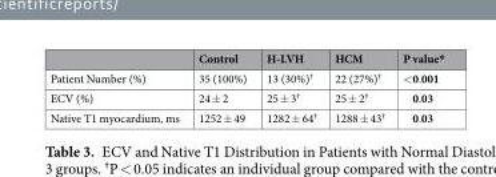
<table><thead><tr><td></td><td>Control</td><td>H-LVH</td><td>HCM</td><td>P value*</td></tr></thead><tbody><tr><td>Patient Number (%)</td><td>35 (100%)</td><td>13 (30%)<sup>†</sup></td><td>22 (27%)<sup>†</sup></td><td>&lt;0.001</td></tr><tr><td>ECV (%)</td><td>24 ± 2</td><td>25 ± 3<sup>†</sup></td><td>25 ± 2<sup>†</sup></td><td>0.03</td></tr><tr><td>Native T1 myocardium, ms</td><td>1252 ± 49</td><td>1282 ± 64<sup>†</sup></td><td>1288 ± 43<sup>†</sup></td><td>0.03</td></tr></tbody></table>